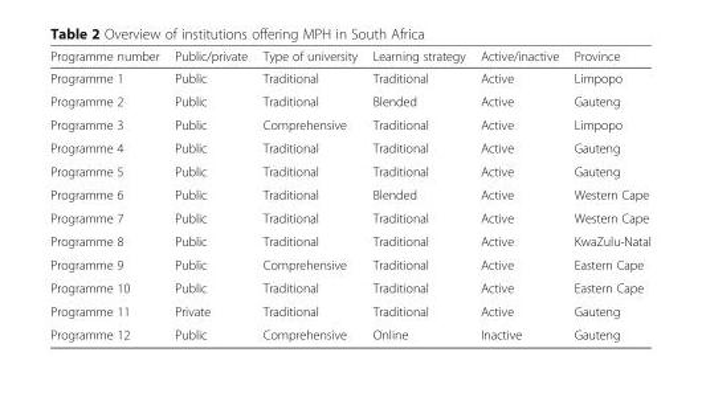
<table><thead><tr><td>Programme number</td><td>Public/private</td><td>Type of university</td><td>Learning strategy</td><td>Active/inactive</td><td>Province</td></tr></thead><tbody><tr><td>Programme 1</td><td>Public</td><td>Traditional</td><td>Traditional</td><td>Active</td><td>Limpopo</td></tr><tr><td>Programme 2</td><td>Public</td><td>Traditional</td><td>Blended</td><td>Active</td><td>Gauteng</td></tr><tr><td>Programme 3</td><td>Public</td><td>Comprehensive</td><td>Traditional</td><td>Active</td><td>Limpopo</td></tr><tr><td>Programme 4</td><td>Public</td><td>Traditional</td><td>Traditional</td><td>Active</td><td>Gauteng</td></tr><tr><td>Programme 5</td><td>Public</td><td>Traditional</td><td>Traditional</td><td>Active</td><td>Gauteng</td></tr><tr><td>Programme 6</td><td>Public</td><td>Traditional</td><td>Blended</td><td>Active</td><td>Western Cape</td></tr><tr><td>Programme 7</td><td>Public</td><td>Traditional</td><td>Traditional</td><td>Active</td><td>Western Cape</td></tr><tr><td>Programme 8</td><td>Public</td><td>Traditional</td><td>Traditional</td><td>Active</td><td>KwaZulu-Natal</td></tr><tr><td>Programme 9</td><td>Public</td><td>Comprehensive</td><td>Traditional</td><td>Active</td><td>Eastern Cape</td></tr><tr><td>Programme 10</td><td>Public</td><td>Traditional</td><td>Traditional</td><td>Active</td><td>Eastern Cape</td></tr><tr><td>Programme 11</td><td>Private</td><td>Traditional</td><td>Traditional</td><td>Active</td><td>Gauteng</td></tr><tr><td>Programme 12</td><td>Public</td><td>Comprehensive</td><td>Online</td><td>Inactive</td><td>Gauteng</td></tr></tbody></table>